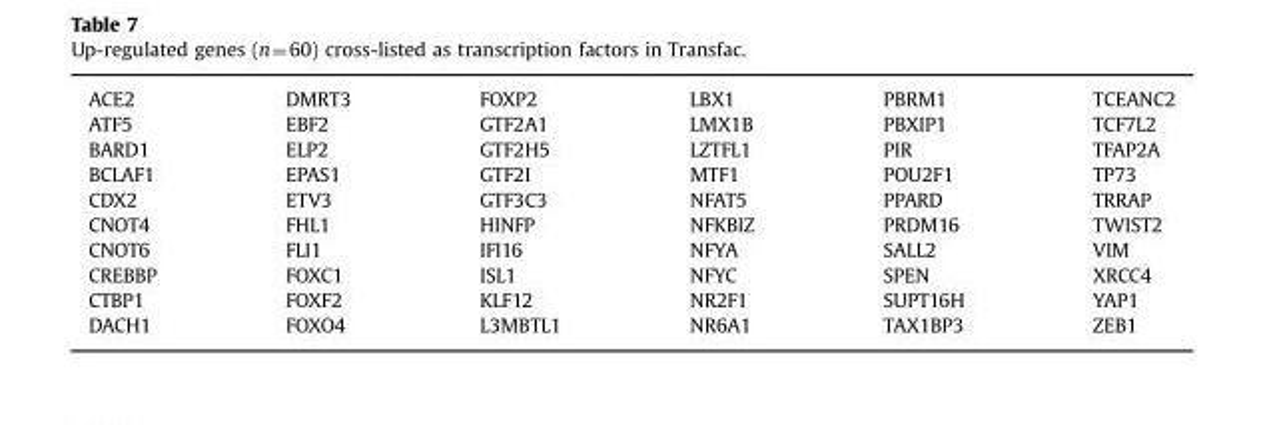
<table><tbody><tr><td>ACE2</td><td>DMRT3</td><td>FOXP2</td><td>LBX1</td><td>PBRM1</td><td>TCEANC2</td></tr><tr><td>ATF5</td><td>EBF2</td><td>GTF2A1</td><td>LMX1B</td><td>PBXIP1</td><td>TCF7L2</td></tr><tr><td>BARD1</td><td>ELP2</td><td>GTF2H5</td><td>LZTFL1</td><td>PIR</td><td>TFAP2A</td></tr><tr><td>BCLAF1</td><td>EPAS1</td><td>GTF2I</td><td>MTF1</td><td>POU2F1</td><td>TP73</td></tr><tr><td>CDX2</td><td>ETV3</td><td>GTF3C3</td><td>NFAT5</td><td>PPARD</td><td>TRRAP</td></tr><tr><td>CNOT4</td><td>FHL1</td><td>HINFP</td><td>NFKBIZ</td><td>PRDM16</td><td>TWIST2</td></tr><tr><td>CNOT6</td><td>FLI1</td><td>IFI16</td><td>NFYA</td><td>SALL2</td><td>VIM</td></tr><tr><td>CREBBP</td><td>FOXC1</td><td>ISL1</td><td>NFYC</td><td>SPEN</td><td>XRCC4</td></tr><tr><td>CTBP1</td><td>FOXF2</td><td>KLF12</td><td>NR2F1</td><td>SUPT16H</td><td>YAP1</td></tr><tr><td>DACH1</td><td>FOXO4</td><td>L3MBTL1</td><td>NR6A1</td><td>TAX1BP3</td><td>ZEB1</td></tr></tbody></table>